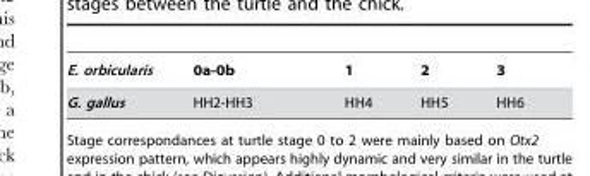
<table><thead><tr><td>E. orbicularis</td><td>0a-0b</td><td>1</td><td>2</td><td>3</td></tr></thead><tbody><tr><td>G. gallus</td><td>HH2-HH3</td><td>HH4</td><td>HH5</td><td>HH6</td></tr></tbody></table>